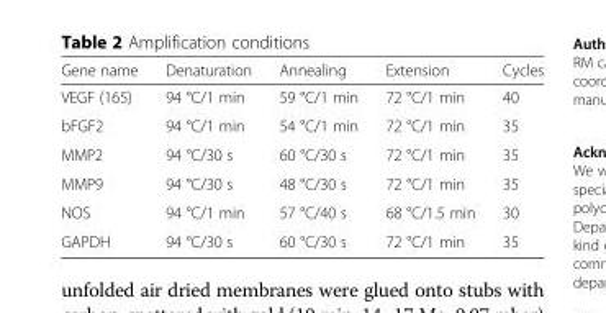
<table><thead><tr><td>Gene name</td><td>Denaturation</td><td>Annealing</td><td>Extension</td><td>Cycles</td></tr></thead><tbody><tr><td>VEGF (165)</td><td>94 °C/1 min</td><td>59 °C/1 min</td><td>72 °C/1 min</td><td>40</td></tr><tr><td>bFGF2</td><td>94 °C/1 min</td><td>54 °C/1 min</td><td>72 °C/1 min</td><td>35</td></tr><tr><td>MMP2</td><td>94 °C/30 s</td><td>60 °C/30 s</td><td>72 °C/1 min</td><td>35</td></tr><tr><td>MMP9</td><td>94 °C/30 s</td><td>48 °C/30 s</td><td>72 °C/1 min</td><td>35</td></tr><tr><td>NOS</td><td>94 °C/1 min</td><td>57 °C/40 s</td><td>68 °C/1.5 min</td><td>30</td></tr><tr><td>GAPDH</td><td>94 °C/30 s</td><td>60 °C/30 s</td><td>72 °C/1 min</td><td>35</td></tr></tbody></table>